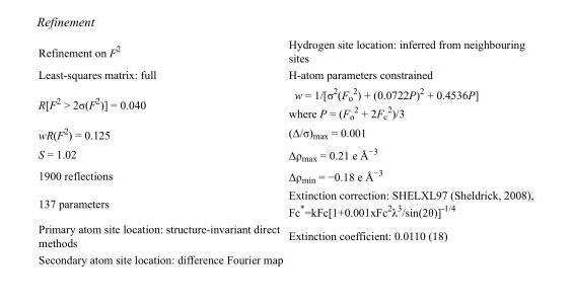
<table><tbody><tr><td>Refinement on F<sup>2</sup></td><td>Hydrogen site location: inferred from neighbouring sites</td></tr><tr><td>Least-squares matrix: full</td><td>H-atom parameters constrained</td></tr><tr><td>R[F<sup>2</sup> &gt; 2σ(F<sup>2</sup>)] = 0.040</td><td>w = 1/[σ<sup>2</sup>(F<sub>o</sub> <sup>2</sup>) + (0.0722P)<sup>2</sup> + 0.4536P] where P = (F<sub>o</sub> <sup>2</sup> + 2F<sub>c</sub> <sup>2</sup>)/3</td></tr><tr><td>wR(F<sup>2</sup>) = 0.125</td><td>(Δ/σ)<sub>max</sub> = 0.001</td></tr><tr><td>S = 1.02</td><td>Δρ<sub>max</sub> = 0.21 e Å<sup>−3</sup></td></tr><tr><td>1900 reflections</td><td>Δρ<sub>min</sub> = −0.18 e Å<sup>−3</sup></td></tr><tr><td>137 parameters</td><td>Extinction correction: SHELXL97 (Sheldrick, 2008), Fc*=kFc[1+0.001xFc<sup>2</sup>λ<sup>3</sup>/sin(2θ)]<sup>-1/4</sup></td></tr><tr><td>Primary atom site location: structure-invariant direct methods</td><td>Extinction coefficient: 0.0110 (18)</td></tr><tr><td>Secondary atom site location: difference Fourier map</td><td></td></tr></tbody></table>